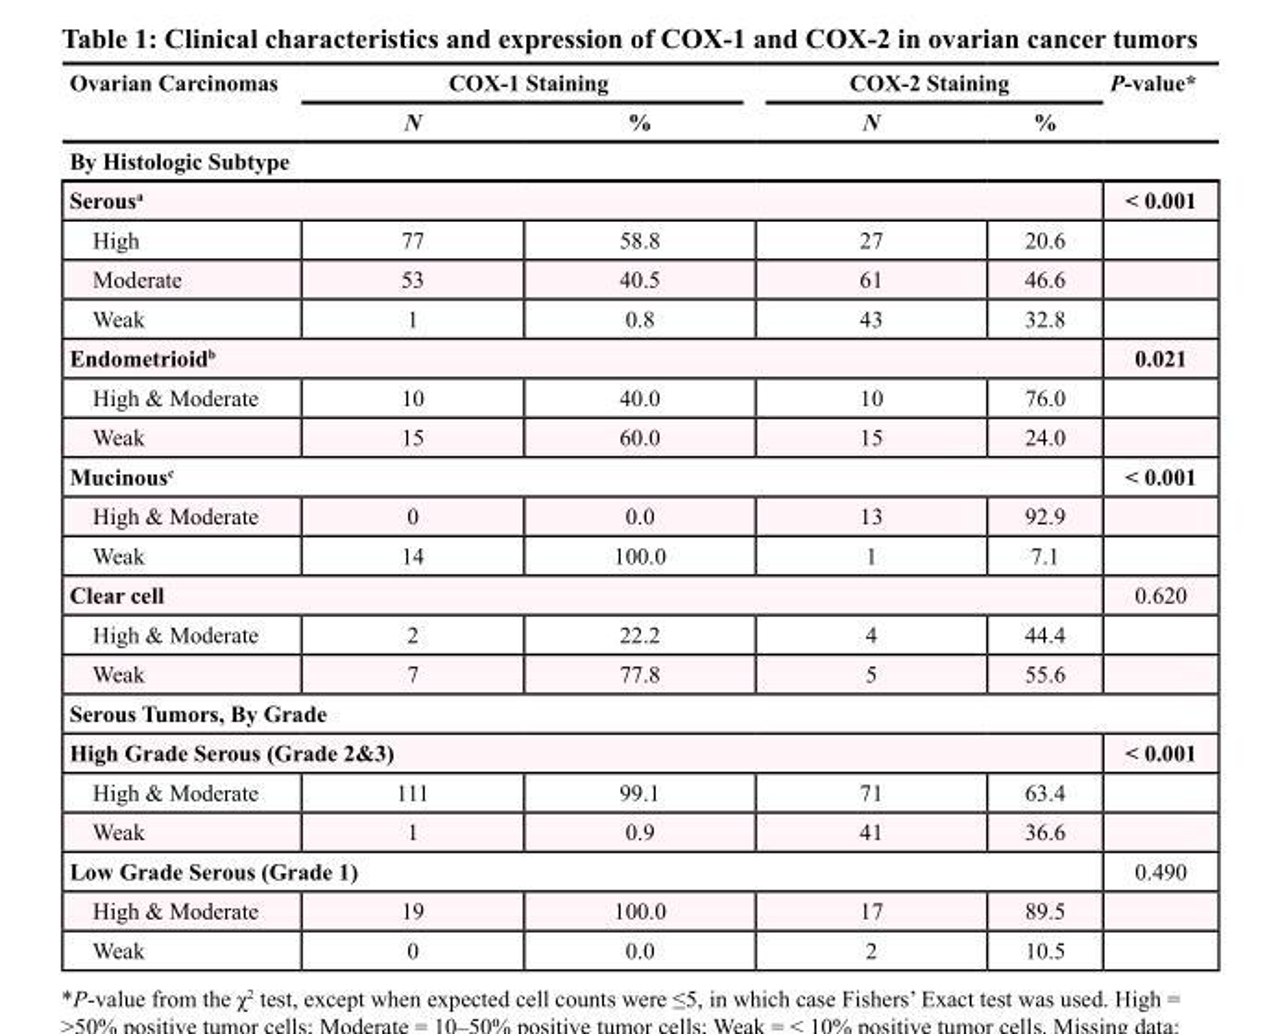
<table><thead><tr><td rowspan="2">Ovarian Carcinomas</td><td colspan="2">COX-1 Staining</td><td colspan="2">COX-2 Staining</td><td rowspan="2">P-value*</td></tr><tr><td>N</td><td>%</td><td>N</td><td>%</td></tr><tr><td colspan="6">By Histologic Subtype</td></tr></thead><tbody><tr><td colspan="5">Serous<sup>a</sup></td><td>&lt; 0.001</td></tr><tr><td>High</td><td>77</td><td>58.8</td><td>27</td><td>20.6</td><td></td></tr><tr><td>Moderate</td><td>53</td><td>40.5</td><td>61</td><td>46.6</td><td></td></tr><tr><td>Weak</td><td>1</td><td>0.8</td><td>43</td><td>32.8</td><td></td></tr><tr><td colspan="5">Endometrioid<sup>b</sup></td><td>0.021</td></tr><tr><td>High &amp; Moderate</td><td>10</td><td>40.0</td><td>10</td><td>76.0</td><td></td></tr><tr><td>Weak</td><td>15</td><td>60.0</td><td>15</td><td>24.0</td><td></td></tr><tr><td colspan="5">Mucinous<sup>c</sup></td><td>&lt; 0.001</td></tr><tr><td>High &amp; Moderate</td><td>0</td><td>0.0</td><td>13</td><td>92.9</td><td></td></tr><tr><td>Weak</td><td>14</td><td>100.0</td><td>1</td><td>7.1</td><td></td></tr><tr><td colspan="5">Clear cell</td><td>0.620</td></tr><tr><td>High &amp; Moderate</td><td>2</td><td>22.2</td><td>4</td><td>44.4</td><td></td></tr><tr><td>Weak</td><td>7</td><td>77.8</td><td>5</td><td>55.6</td><td></td></tr><tr><td colspan="6">Serous Tumors, By Grade</td></tr><tr><td colspan="5">High Grade Serous (Grade 2&amp;3)</td><td>&lt; 0.001</td></tr><tr><td>High &amp; Moderate</td><td>111</td><td>99.1</td><td>71</td><td>63.4</td><td></td></tr><tr><td>Weak</td><td>1</td><td>0.9</td><td>41</td><td>36.6</td><td></td></tr><tr><td colspan="5">Low Grade Serous (Grade 1)</td><td>0.490</td></tr><tr><td>High &amp; Moderate</td><td>19</td><td>100.0</td><td>17</td><td>89.5</td><td></td></tr><tr><td>Weak</td><td>0</td><td>0.0</td><td>2</td><td>10.5</td><td></td></tr></tbody></table>